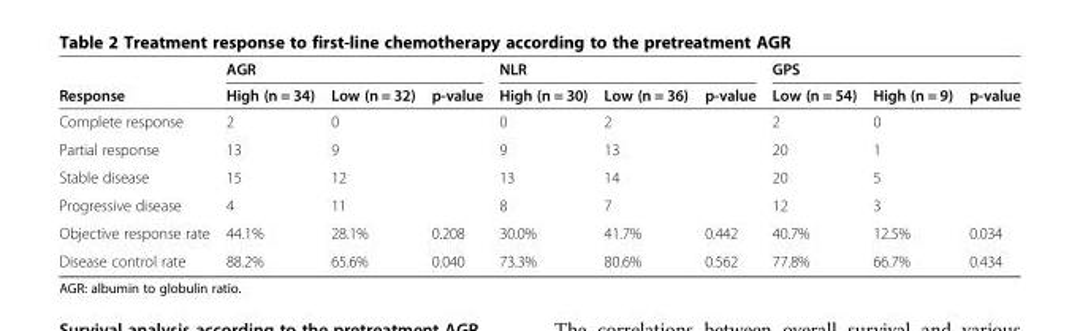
<table><thead><tr><td rowspan="2">Response</td><td colspan="3">AGR</td><td colspan="3">NLR</td><td colspan="3">GPS</td></tr><tr><td>High (n = 34)</td><td>Low (n = 32)</td><td>p-value</td><td>High (n = 30)</td><td>Low (n = 36)</td><td>p-value</td><td>Low (n = 54)</td><td>High (n = 9)</td><td>p-value</td></tr></thead><tbody><tr><td>Complete response</td><td>2</td><td>0</td><td></td><td>0</td><td>2</td><td></td><td>2</td><td>0</td><td></td></tr><tr><td>Partial response</td><td>13</td><td>9</td><td></td><td>9</td><td>13</td><td></td><td>20</td><td>1</td><td></td></tr><tr><td>Stable disease</td><td>15</td><td>12</td><td></td><td>13</td><td>14</td><td></td><td>20</td><td>5</td><td></td></tr><tr><td>Progressive disease</td><td>4</td><td>11</td><td></td><td>8</td><td>7</td><td></td><td>12</td><td>3</td><td></td></tr><tr><td>Objective response rate</td><td>44.1%</td><td>28.1%</td><td>0.208</td><td>30.0%</td><td>41.7%</td><td>0.442</td><td>40.7%</td><td>12.5%</td><td>0.034</td></tr><tr><td>Disease control rate</td><td>88.2%</td><td>65.6%</td><td>0.040</td><td>73.3%</td><td>80.6%</td><td>0.562</td><td>77.8%</td><td>66.7%</td><td>0.434</td></tr></tbody></table>